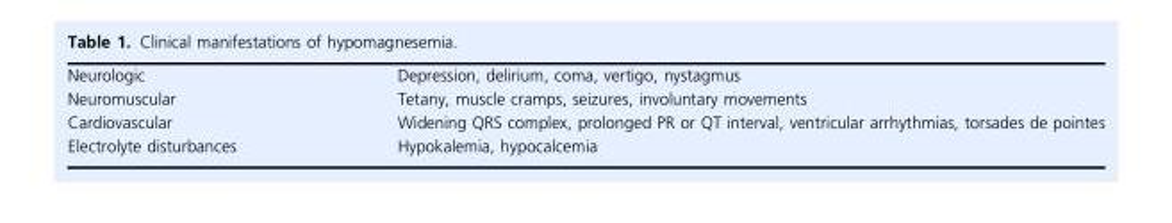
<table><tbody><tr><td>Neurologic</td><td>Depression, delirium, coma, vertigo, nystagmus</td></tr><tr><td>Neuromuscular</td><td>Tetany, muscle cramps, seizures, involuntary movements</td></tr><tr><td>Cardiovascular</td><td>Widening QRS complex, prolonged PR or QT interval, ventricular arrhythmias, torsades de pointes</td></tr><tr><td>Electrolyte disturbances</td><td>Hypokalemia, hypocalcemia</td></tr></tbody></table>